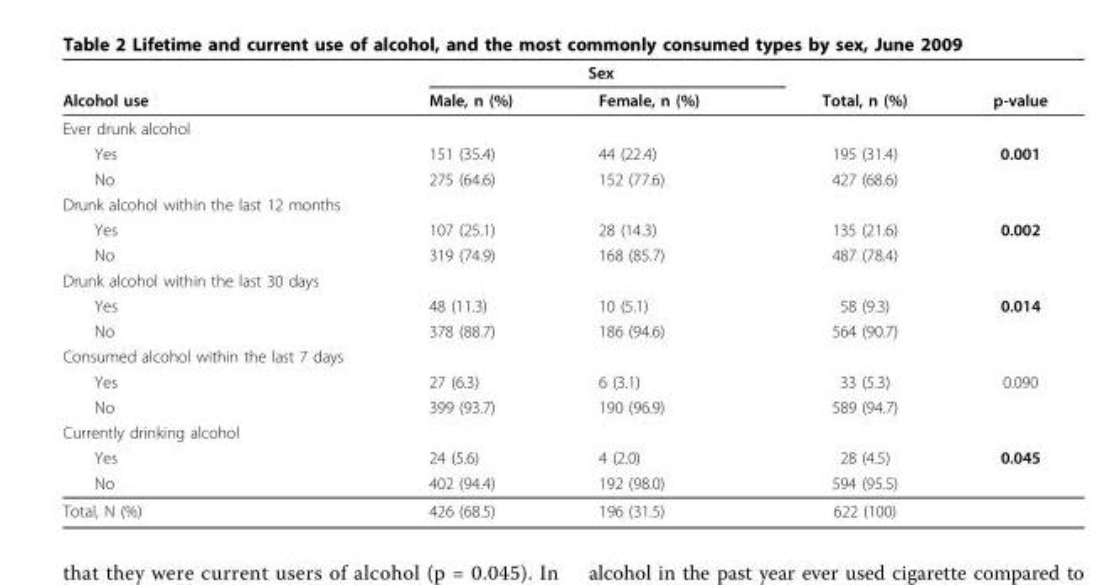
<table><thead><tr><td rowspan="2">Alcohol use</td><td colspan="2">Sex</td><td rowspan="2">Total, n (%)</td><td rowspan="2">p-value</td></tr><tr><td>Male, n (%)</td><td>Female, n (%)</td></tr></thead><tbody><tr><td colspan="5">Ever drunk alcohol</td></tr><tr><td>Yes</td><td>151 (35.4)</td><td>44 (22.4)</td><td>195 (31.4)</td><td>0.001</td></tr><tr><td>No</td><td>275 (64.6)</td><td>152 (77.6)</td><td>427 (68.6)</td><td></td></tr><tr><td colspan="5">Drunk alcohol within the last 12 months</td></tr><tr><td>Yes</td><td>107 (25.1)</td><td>28 (14.3)</td><td>135 (21.6)</td><td>0.002</td></tr><tr><td>No</td><td>319 (74.9)</td><td>168 (85.7)</td><td>487 (78.4)</td><td></td></tr><tr><td colspan="5">Drunk alcohol within the last 30 days</td></tr><tr><td>Yes</td><td>48 (11.3)</td><td>10 (5.1)</td><td>58 (9.3)</td><td>0.014</td></tr><tr><td>No</td><td>378 (88.7)</td><td>186 (94.6)</td><td>564 (90.7)</td><td></td></tr><tr><td colspan="5">Consumed alcohol within the last 7 days</td></tr><tr><td>Yes</td><td>27 (6.3)</td><td>6 (3.1)</td><td>33 (5.3)</td><td>0.090</td></tr><tr><td>No</td><td>399 (93.7)</td><td>190 (96.9)</td><td>589 (94.7)</td><td></td></tr><tr><td colspan="5">Currently drinking alcohol</td></tr><tr><td>Yes</td><td>24 (5.6)</td><td>4 (2.0)</td><td>28 (4.5)</td><td>0.045</td></tr><tr><td>No</td><td>402 (94.4)</td><td>192 (98.0)</td><td>594 (95.5)</td><td></td></tr><tr><td>Total, N (%)</td><td>426 (68.5)</td><td>196 (31.5)</td><td>622 (100)</td><td></td></tr></tbody></table>